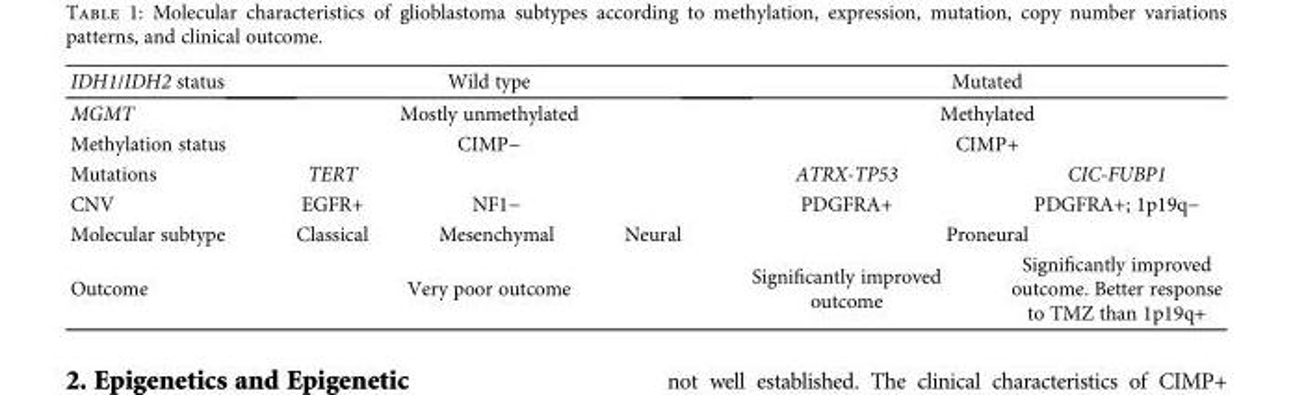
<table><thead><tr><td rowspan="4">IDH1/IDH2 status MGMT Methylation status Mutations</td><td rowspan="3" colspan="3">Wild type Mostly unmethylated CIMP−</td><td rowspan="3" colspan="2">Mutated Methylated CIMP+</td></tr><tr></tr><tr></tr><tr><td>TERT</td><td></td><td></td><td>ATRX-TP53</td><td>CIC-FUBP1</td></tr></thead><tbody><tr><td>CNV</td><td>EGFR+</td><td>NF1−</td><td></td><td>PDGFRA+</td><td>PDGFRA+; 1p19q−</td></tr><tr><td>Molecular subtype</td><td>Classical</td><td>Mesenchymal</td><td>Neural</td><td colspan="2">Proneural</td></tr><tr><td>Outcome</td><td colspan="3">Very poor outcome</td><td>Significantly improved outcome</td><td>Significantly improved outcome. Better response to TMZ than 1p19q+</td></tr></tbody></table>